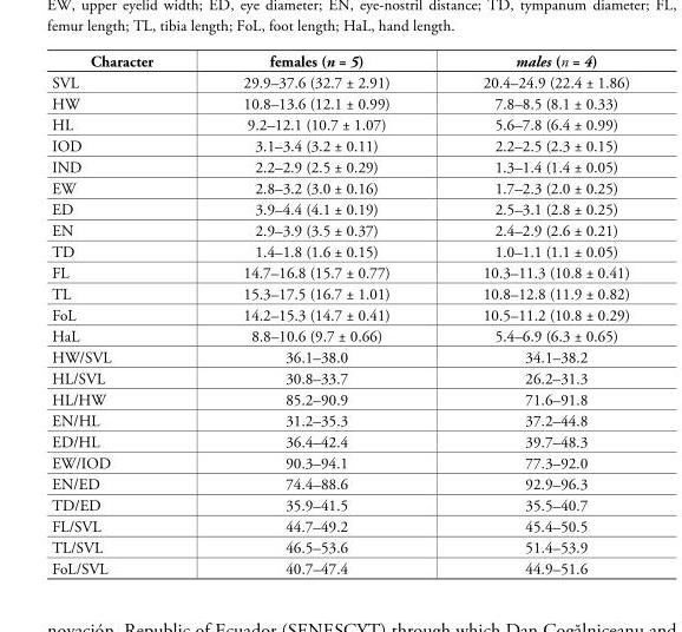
<table><thead><tr><td>Character</td><td>females (n = 5)</td><td>males (n = 4)</td></tr></thead><tbody><tr><td>SVL</td><td>29.9–37.6 (32.7 ± 2.91)</td><td>20.4–24.9 (22.4 ± 1.86)</td></tr><tr><td>HW</td><td>10.8–13.6 (12.1 ± 0.99)</td><td>7.8–8.5 (8.1 ± 0.33)</td></tr><tr><td>HL</td><td>9.2–12.1 (10.7 ± 1.07)</td><td>5.6–7.8 (6.4 ± 0.99)</td></tr><tr><td>IOD</td><td>3.1–3.4 (3.2 ± 0.11)</td><td>2.2–2.5 (2.3 ± 0.15)</td></tr><tr><td>IND</td><td>2.2–2.9 (2.5 ± 0.29)</td><td>1.3–1.4 (1.4 ± 0.05)</td></tr><tr><td>EW</td><td>2.8–3.2 (3.0 ± 0.16)</td><td>1.7–2.3 (2.0 ± 0.25)</td></tr><tr><td>ED</td><td>3.9–4.4 (4.1 ± 0.19)</td><td>2.5–3.1 (2.8 ± 0.25)</td></tr><tr><td>EN</td><td>2.9–3.9 (3.5 ± 0.37)</td><td>2.4–2.9 (2.6 ± 0.21)</td></tr><tr><td>TD</td><td>1.4–1.8 (1.6 ± 0.15)</td><td>1.0–1.1 (1.1 ± 0.05)</td></tr><tr><td>FL</td><td>14.7–16.8 (15.7 ± 0.77)</td><td>10.3–11.3 (10.8 ± 0.41)</td></tr><tr><td>TL</td><td>15.3–17.5 (16.7 ± 1.01)</td><td>10.8–12.8 (11.9 ± 0.82)</td></tr><tr><td>FoL</td><td>14.2–15.3 (14.7 ± 0.41)</td><td>10.5–11.2 (10.8 ± 0.29)</td></tr><tr><td>HaL</td><td>8.8–10.6 (9.7 ± 0.66)</td><td>5.4–6.9 (6.3 ± 0.65)</td></tr><tr><td>HW/SVL</td><td>36.1–38.0</td><td>34.1–38.2</td></tr><tr><td>HL/SVL</td><td>30.8–33.7</td><td>26.2–31.3</td></tr><tr><td>HL/HW</td><td>85.2–90.9</td><td>71.6–91.8</td></tr><tr><td>EN/HL</td><td>31.2–35.3</td><td>37.2–44.8</td></tr><tr><td>ED/HL</td><td>36.4–42.4</td><td>39.7–48.3</td></tr><tr><td>EW/IOD</td><td>90.3–94.1</td><td>77.3–92.0</td></tr><tr><td>EN/ED</td><td>74.4–88.6</td><td>92.9–96.3</td></tr><tr><td>TD/ED</td><td>35.9–41.5</td><td>35.5–40.7</td></tr><tr><td>FL/SVL</td><td>44.7–49.2</td><td>45.4–50.5</td></tr><tr><td>TL/SVL</td><td>46.5–53.6</td><td>51.4–53.9</td></tr><tr><td>FoL/SVL</td><td>40.7–47.4</td><td>44.9–51.6</td></tr></tbody></table>